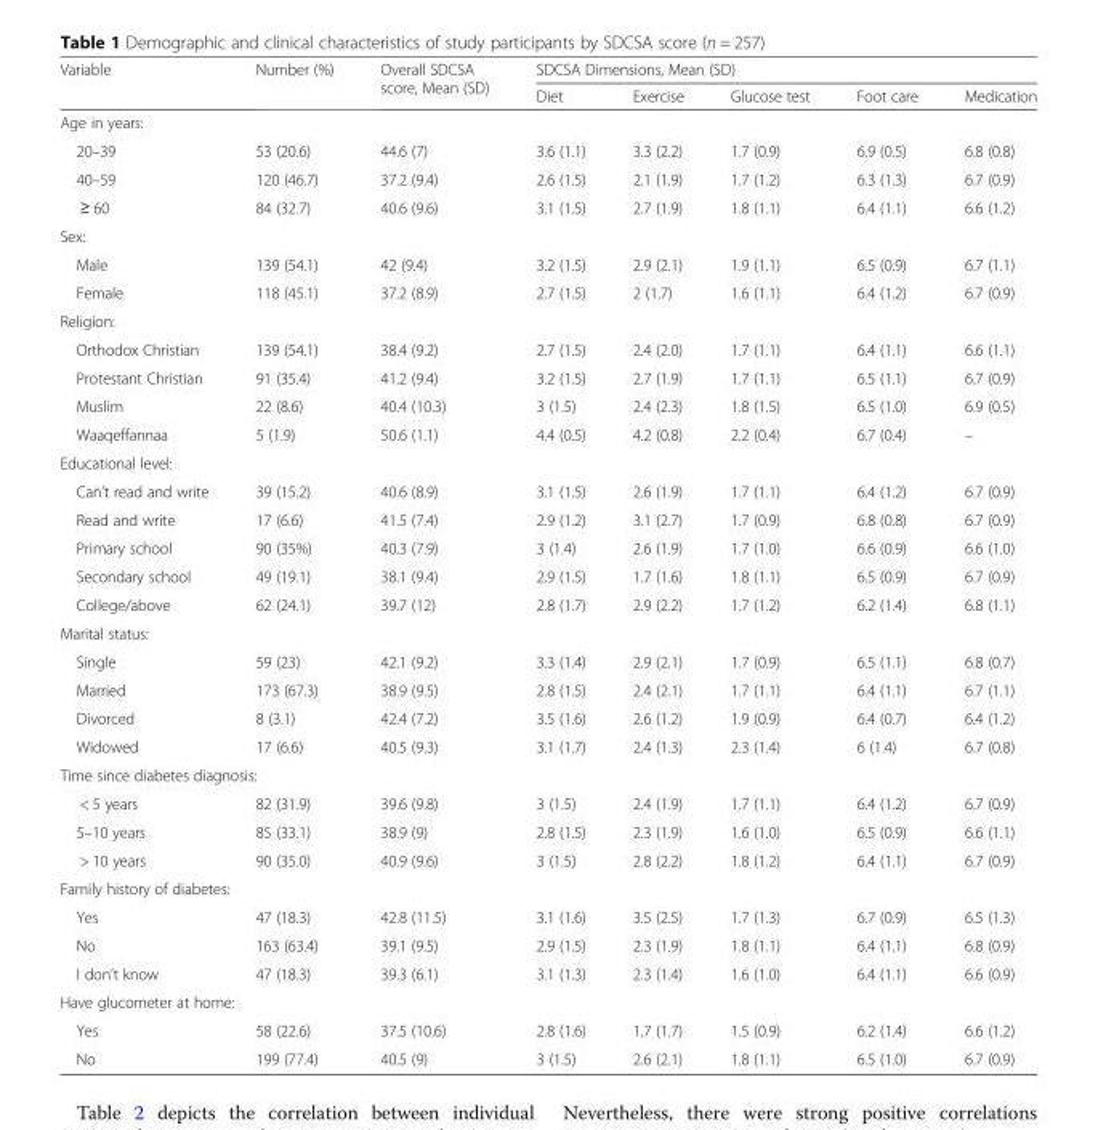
<table><thead><tr><td rowspan="2">Variable</td><td rowspan="2">Number (%)</td><td rowspan="2">Overall SDCSA score, Mean (SD)</td><td colspan="5">SDCSA Dimensions, Mean (SD)</td></tr><tr><td>Diet</td><td>Exercise</td><td>Glucose test</td><td>Foot care</td><td>Medication</td></tr></thead><tbody><tr><td colspan="8">Age in years:</td></tr><tr><td>20–39</td><td>53 (20.6)</td><td>44.6 (7)</td><td>3.6 (1.1)</td><td>3.3 (2.2)</td><td>1.7 (0.9)</td><td>6.9 (0.5)</td><td>6.8 (0.8)</td></tr><tr><td>40–59</td><td>120 (46.7)</td><td>37.2 (9.4)</td><td>2.6 (1.5)</td><td>2.1 (1.9)</td><td>1.7 (1.2)</td><td>6.3 (1.3)</td><td>6.7 (0.9)</td></tr><tr><td>≥ 60</td><td>84 (32.7)</td><td>40.6 (9.6)</td><td>3.1 (1.5)</td><td>2.7 (1.9)</td><td>1.8 (1.1)</td><td>6.4 (1.1)</td><td>6.6 (1.2)</td></tr><tr><td colspan="8">Sex:</td></tr><tr><td>Male</td><td>139 (54.1)</td><td>42 (9.4)</td><td>3.2 (1.5)</td><td>2.9 (2.1)</td><td>1.9 (1.1)</td><td>6.5 (0.9)</td><td>6.7 (1.1)</td></tr><tr><td>Female</td><td>118 (45.1)</td><td>37.2 (8.9)</td><td>2.7 (1.5)</td><td>2 (1.7)</td><td>1.6 (1.1)</td><td>6.4 (1.2)</td><td>6.7 (0.9)</td></tr><tr><td colspan="8">Religion:</td></tr><tr><td>Orthodox Christian</td><td>139 (54.1)</td><td>38.4 (9.2)</td><td>2.7 (1.5)</td><td>2.4 (2.0)</td><td>1.7 (1.1)</td><td>6.4 (1.1)</td><td>6.6 (1.1)</td></tr><tr><td>Protestant Christian</td><td>91 (35.4)</td><td>41.2 (9.4)</td><td>3.2 (1.5)</td><td>2.7 (1.9)</td><td>1.7 (1.1)</td><td>6.5 (1.1)</td><td>6.7 (0.9)</td></tr><tr><td>Muslim</td><td>22 (8.6)</td><td>40.4 (10.3)</td><td>3 (1.5)</td><td>2.4 (2.3)</td><td>1.8 (1.5)</td><td>6.5 (1.0)</td><td>6.9 (0.5)</td></tr><tr><td>Waaqeffannaa</td><td>5 (1.9)</td><td>50.6 (1.1)</td><td>4.4 (0.5)</td><td>4.2 (0.8)</td><td>2.2 (0.4)</td><td>6.7 (0.4)</td><td>–</td></tr><tr><td colspan="8">Educational level:</td></tr><tr><td>Can’t read and write</td><td>39 (15.2)</td><td>40.6 (8.9)</td><td>3.1 (1.5)</td><td>2.6 (1.9)</td><td>1.7 (1.1)</td><td>6.4 (1.2)</td><td>6.7 (0.9)</td></tr><tr><td>Read and write</td><td>17 (6.6)</td><td>41.5 (7.4)</td><td>2.9 (1.2)</td><td>3.1 (2.7)</td><td>1.7 (0.9)</td><td>6.8 (0.8)</td><td>6.7 (0.9)</td></tr><tr><td>Primary school</td><td>90 (35%)</td><td>40.3 (7.9)</td><td>3 (1.4)</td><td>2.6 (1.9)</td><td>1.7 (1.0)</td><td>6.6 (0.9)</td><td>6.6 (1.0)</td></tr><tr><td>Secondary school</td><td>49 (19.1)</td><td>38.1 (9.4)</td><td>2.9 (1.5)</td><td>1.7 (1.6)</td><td>1.8 (1.1)</td><td>6.5 (0.9)</td><td>6.7 (0.9)</td></tr><tr><td>College/above</td><td>62 (24.1)</td><td>39.7 (12)</td><td>2.8 (1.7)</td><td>2.9 (2.2)</td><td>1.7 (1.2)</td><td>6.2 (1.4)</td><td>6.8 (1.1)</td></tr><tr><td colspan="8">Marital status:</td></tr><tr><td>Single</td><td>59 (23)</td><td>42.1 (9.2)</td><td>3.3 (1.4)</td><td>2.9 (2.1)</td><td>1.7 (0.9)</td><td>6.5 (1.1)</td><td>6.8 (0.7)</td></tr><tr><td>Married</td><td>173 (67.3)</td><td>38.9 (9.5)</td><td>2.8 (1.5)</td><td>2.4 (2.1)</td><td>1.7 (1.1)</td><td>6.4 (1.1)</td><td>6.7 (1.1)</td></tr><tr><td>Divorced</td><td>8 (3.1)</td><td>42.4 (7.2)</td><td>3.5 (1.6)</td><td>2.6 (1.2)</td><td>1.9 (0.9)</td><td>6.4 (0.7)</td><td>6.4 (1.2)</td></tr><tr><td>Widowed</td><td>17 (6.6)</td><td>40.5 (9.3)</td><td>3.1 (1.7)</td><td>2.4 (1.3)</td><td>2.3 (1.4)</td><td>6 (1.4)</td><td>6.7 (0.8)</td></tr><tr><td colspan="8">Time since diabetes diagnosis:</td></tr><tr><td>&lt; 5 years</td><td>82 (31.9)</td><td>39.6 (9.8)</td><td>3 (1.5)</td><td>2.4 (1.9)</td><td>1.7 (1.1)</td><td>6.4 (1.2)</td><td>6.7 (0.9)</td></tr><tr><td>5–10 years</td><td>85 (33.1)</td><td>38.9 (9)</td><td>2.8 (1.5)</td><td>2.3 (1.9)</td><td>1.6 (1.0)</td><td>6.5 (0.9)</td><td>6.6 (1.1)</td></tr><tr><td>&gt; 10 years</td><td>90 (35.0)</td><td>40.9 (9.6)</td><td>3 (1.5)</td><td>2.8 (2.2)</td><td>1.8 (1.2)</td><td>6.4 (1.1)</td><td>6.7 (0.9)</td></tr><tr><td colspan="8">Family history of diabetes:</td></tr><tr><td>Yes</td><td>47 (18.3)</td><td>42.8 (11.5)</td><td>3.1 (1.6)</td><td>3.5 (2.5)</td><td>1.7 (1.3)</td><td>6.7 (0.9)</td><td>6.5 (1.3)</td></tr><tr><td>No</td><td>163 (63.4)</td><td>39.1 (9.5)</td><td>2.9 (1.5)</td><td>2.3 (1.9)</td><td>1.8 (1.1)</td><td>6.4 (1.1)</td><td>6.8 (0.9)</td></tr><tr><td>I don’t know</td><td>47 (18.3)</td><td>39.3 (6.1)</td><td>3.1 (1.3)</td><td>2.3 (1.4)</td><td>1.6 (1.0)</td><td>6.4 (1.1)</td><td>6.6 (0.9)</td></tr><tr><td colspan="8">Have glucometer at home:</td></tr><tr><td>Yes</td><td>58 (22.6)</td><td>37.5 (10.6)</td><td>2.8 (1.6)</td><td>1.7 (1.7)</td><td>1.5 (0.9)</td><td>6.2 (1.4)</td><td>6.6 (1.2)</td></tr><tr><td>No</td><td>199 (77.4)</td><td>40.5 (9)</td><td>3 (1.5)</td><td>2.6 (2.1)</td><td>1.8 (1.1)</td><td>6.5 (1.0)</td><td>6.7 (0.9)</td></tr></tbody></table>